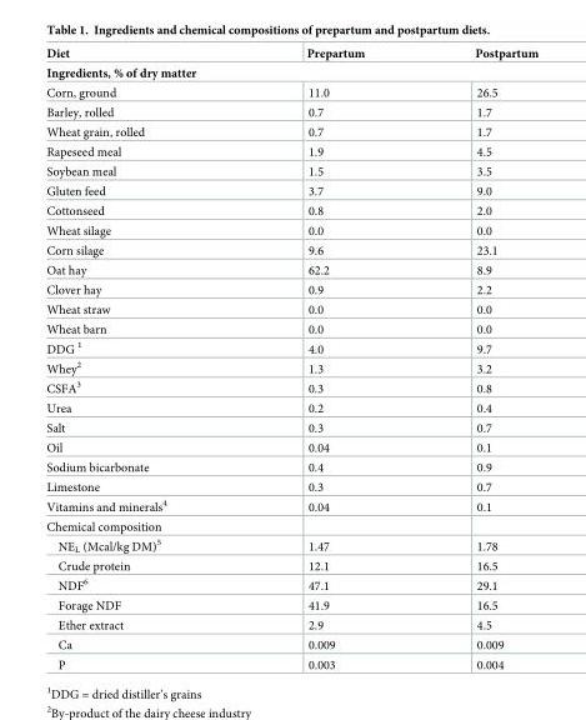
<table><thead><tr><td>Diet</td><td colspan="2">Prepartum Postpartum</td></tr><tr><td colspan="3">Ingredients, % of dry matter</td></tr><tr><td>Corn, ground</td><td>11.0</td><td>26.5</td></tr></thead><tbody><tr><td>Barley, rolled</td><td>0.7</td><td>1.7</td></tr><tr><td>Wheat grain, rolled</td><td>0.7</td><td>1.7</td></tr><tr><td>Rapeseed meal</td><td>1.9</td><td>4.5</td></tr><tr><td>Soybean meal</td><td>1.5</td><td>3.5</td></tr><tr><td>Gluten feed</td><td>3.7</td><td>9.0</td></tr><tr><td>Cottonseed</td><td>0.8</td><td>2.0</td></tr><tr><td>Wheat silage</td><td>0.0</td><td>0.0</td></tr><tr><td>Corn silage</td><td>9.6</td><td>23.1</td></tr><tr><td>Oat hay</td><td>62.2</td><td>8.9</td></tr><tr><td>Clover hay</td><td>0.9</td><td>2.2</td></tr><tr><td>Wheat straw</td><td>0.0</td><td>0.0</td></tr><tr><td>Wheat barn</td><td>0.0</td><td>0.0</td></tr><tr><td>DDG <sup>1</sup></td><td>4.0</td><td>9.7</td></tr><tr><td>Whey<sup>2</sup></td><td>1.3</td><td>3.2</td></tr><tr><td>CSFA<sup>3</sup></td><td>0.3</td><td>0.8</td></tr><tr><td>Urea</td><td>0.2</td><td>0.4</td></tr><tr><td>Salt</td><td>0.3</td><td>0.7</td></tr><tr><td>Oil</td><td>0.04</td><td>0.1</td></tr><tr><td>Sodium bicarbonate</td><td>0.4</td><td>0.9</td></tr><tr><td>Limestone</td><td>0.3</td><td>0.7</td></tr><tr><td>Vitamins and minerals<sup>4</sup></td><td>0.04</td><td>0.1</td></tr><tr><td colspan="3">Chemical composition</td></tr><tr><td>NE<sub>L</sub> (Mcal/kg DM)<sup>5</sup></td><td>1.47</td><td>1.78</td></tr><tr><td>Crude protein</td><td>12.1</td><td>16.5</td></tr><tr><td>NDF<sup>6</sup></td><td>47.1</td><td>29.1</td></tr><tr><td>Forage NDF</td><td>41.9</td><td>16.5</td></tr><tr><td>Ether extract</td><td>2.9</td><td>4.5</td></tr><tr><td>Ca</td><td>0.009</td><td>0.009</td></tr><tr><td>P</td><td>0.003</td><td>0.004</td></tr></tbody></table>